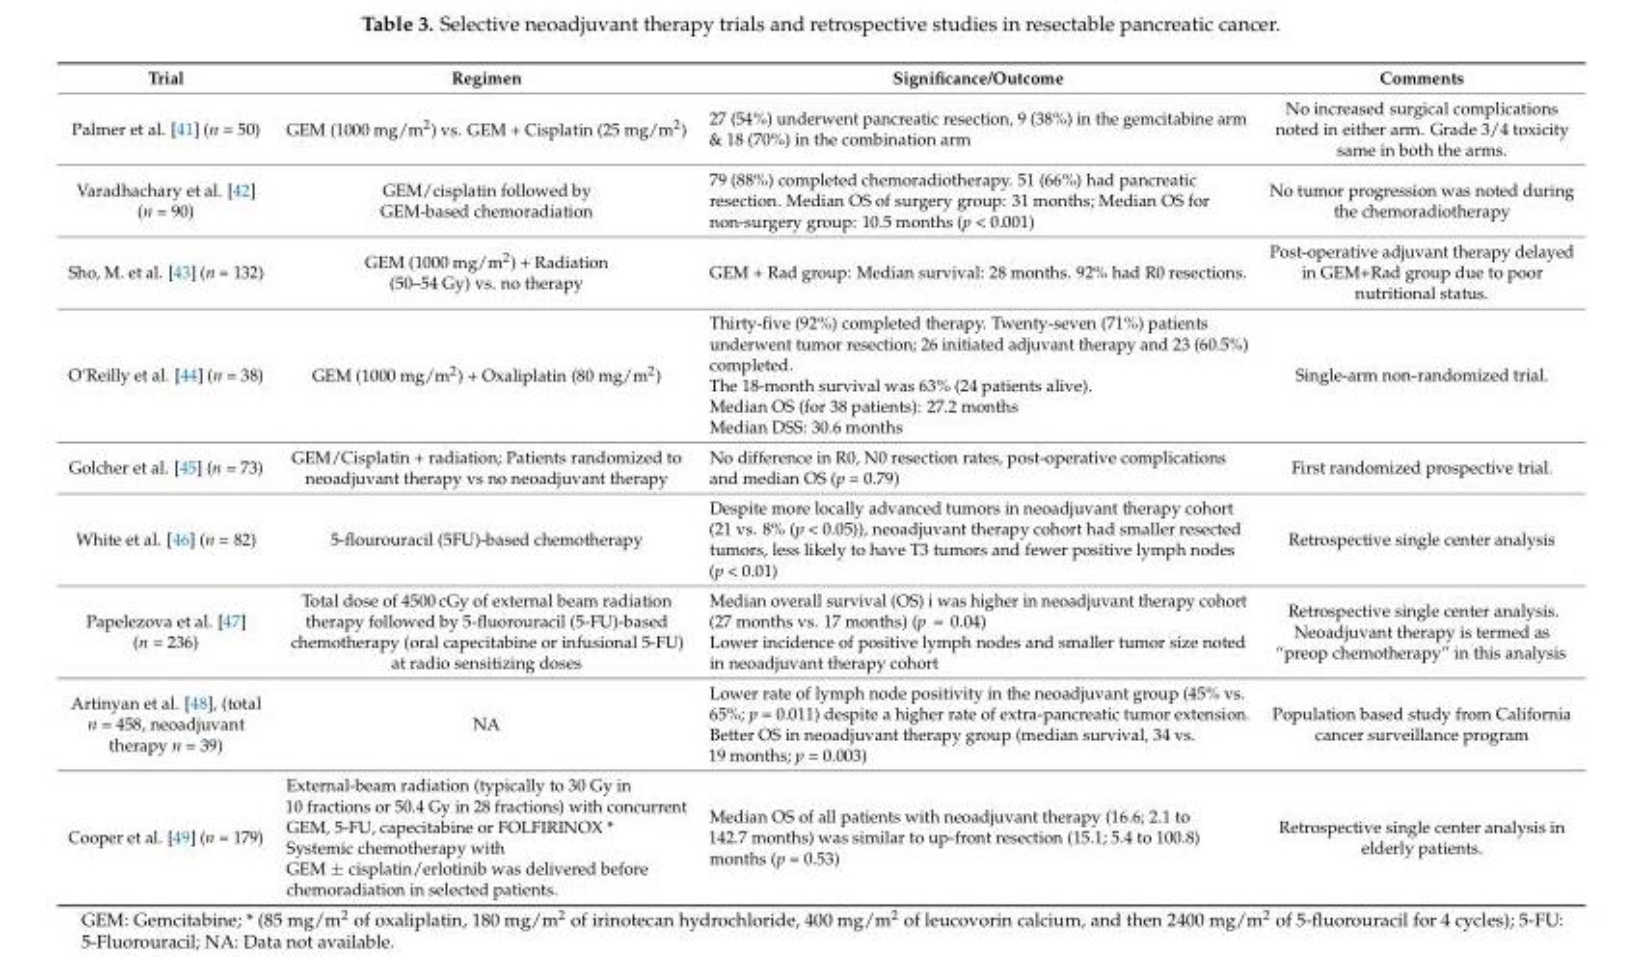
<table><thead><tr><td>Trial</td><td>Regimen</td><td>Significance/Outcome</td><td>Comments</td></tr></thead><tbody><tr><td>Palmer et al. [41] (n = 50)</td><td>GEM (1000 mg/m<sup>2</sup>) vs. GEM + Cisplatin (25 mg/m<sup>2</sup>)</td><td>27 (54%) underwent pancreatic resection, 9 (38%) in the gemcitabine arm &amp; 18 (70%) in the combination arm</td><td>No increased surgical complications noted in either arm. Grade 3/4 toxicity same in both the arms.</td></tr><tr><td>Varadhachary et al. [42] (n = 90)</td><td>GEM/cisplatin followed by GEM-based chemoradiation</td><td>79 (88%) completed chemoradiotherapy. 51 (66%) had pancreatic resection. Median OS of surgery group: 31 months; Median OS for non-surgery group: 10.5 months (p &lt; 0.001)</td><td>No tumor progression was noted during the chemoradiotherapy</td></tr><tr><td>Sho, M. et al. [43] (n = 132)</td><td>GEM (1000 mg/m<sup>2</sup>) + Radiation (50–54 Gy) vs. no therapy</td><td>GEM + Rad group: Median survival: 28 months. 92% had R0 resections.</td><td>Post-operative adjuvant therapy delayed in GEM+Rad group due to poor nutritional status.</td></tr><tr><td>O’Reilly et al. [44] (n = 38)</td><td>GEM (1000 mg/m<sup>2</sup>) + Oxaliplatin (80 mg/m<sup>2</sup>)</td><td>Thirty-five (92%) completed therapy. Twenty-seven (71%) patients underwent tumor resection; 26 initiated adjuvant therapy and 23 (60.5%) completed. The 18-month survival was 63% (24 patients alive). Median OS (for 38 patients): 27.2 months Median DSS: 30.6 months</td><td>Single-arm non-randomized trial.</td></tr><tr><td>Golcher et al. [45] (n = 73)</td><td>GEM/Cisplatin + radiation; Patients randomized to neoadjuvant therapy vs no neoadjuvant therapy</td><td>No difference in R0, N0 resection rates, post-operative complications and median OS (p = 0.79)</td><td>First randomized prospective trial.</td></tr><tr><td>White et al. [46] (n = 82)</td><td>5-flourouracil (5FU)-based chemotherapy</td><td>Despite more locally advanced tumors in neoadjuvant therapy cohort (21 vs. 8% (p &lt; 0.05)), neoadjuvant therapy cohort had smaller resected tumors, less likely to have T3 tumors and fewer positive lymph nodes (p &lt; 0.01)</td><td>Retrospective single center analysis</td></tr><tr><td>Papelezova et al. [47] (n = 236)</td><td>Total dose of 4500 cGy of external beam radiation therapy followed by 5-fluorouracil (5-FU)-based chemotherapy (oral capecitabine or infusional 5-FU) at radio sensitizing doses</td><td>Median overall survival (OS) i was higher in neoadjuvant therapy cohort (27 months vs. 17 months) (p = 0.04) Lower incidence of positive lymph nodes and smaller tumor size noted in neoadjuvant therapy cohort</td><td>Retrospective single center analysis. Neoadjuvant therapy is termed as “preop chemotherapy” in this analysis</td></tr><tr><td>Artinyan et al. [48], (total n = 458, neoadjuvant therapy n = 39)</td><td>NA</td><td>Lower rate of lymph node positivity in the neoadjuvant group (45% vs. 65%; p = 0.011) despite a higher rate of extra-pancreatic tumor extension. Better OS in neoadjuvant therapy group (median survival, 34 vs. 19 months; p = 0.003)</td><td>Population based study from California cancer surveillance program</td></tr><tr><td>Cooper et al. [49] (n = 179)</td><td>External-beam radiation (typically to 30 Gy in 10 fractions or 50.4 Gy in 28 fractions) with concurrent GEM, 5-FU, capecitabine or FOLFIRINOX * Systemic chemotherapy with GEM ± cisplatin/erlotinib was delivered before chemoradiation in selected patients.</td><td>Median OS of all patients with neoadjuvant therapy (16.6; 2.1 to 142.7 months) was similar to up-front resection (15.1; 5.4 to 100.8) months (p = 0.53)</td><td>Retrospective single center analysis in elderly patients.</td></tr></tbody></table>